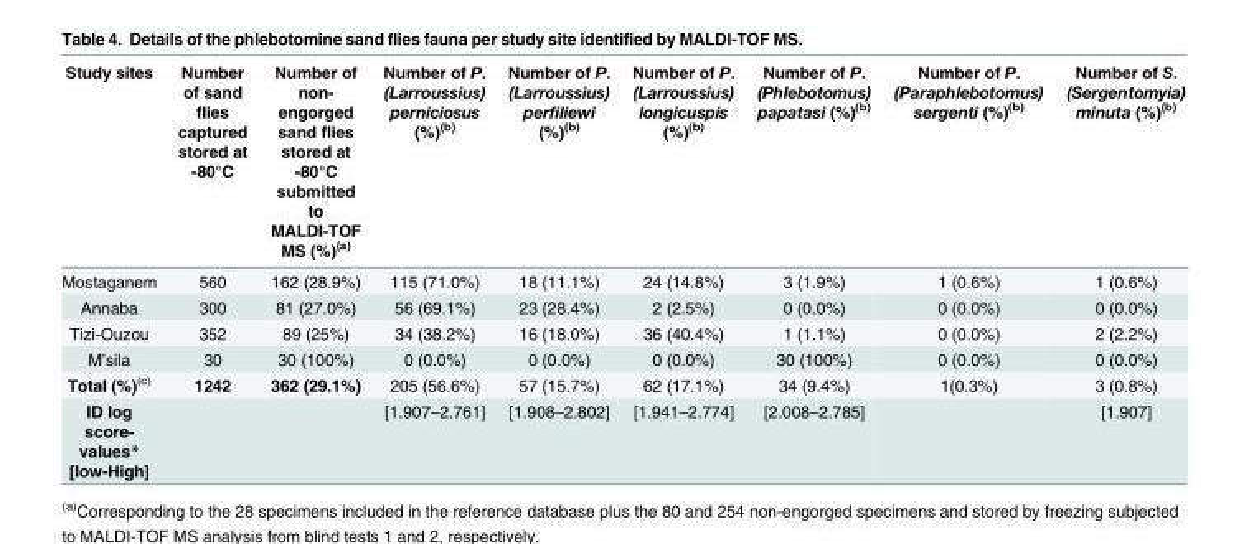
<table><thead><tr><td>Study sites</td><td>Number of sand flies captured stored at -80°C</td><td>Number of non- engorged sand flies stored at -80°C submitted to MALDI-TOF MS (%)<sup>(a)</sup></td><td>Number of P. (Larroussius) perniciosus (%)<sup>(b)</sup></td><td>Number of P. (Larroussius) perfiliewi (%)<sup>(b)</sup></td><td>Number of P. (Larroussius) longicuspis (%)<sup>(b)</sup></td><td>Number of P. (Phlebotomus) papatasi (%)<sup>(b)</sup></td><td>Number of P. (Paraphlebotomus) sergenti (%)<sup>(b)</sup></td><td>Number of S. (Sergentomyia) minuta (%)<sup>(b)</sup></td></tr></thead><tbody><tr><td>Mostaganem</td><td>560</td><td>162 (28.9%)</td><td>115 (71.0%)</td><td>18 (11.1%)</td><td>24 (14.8%)</td><td>3 (1.9%)</td><td>1 (0.6%)</td><td>1 (0.6%)</td></tr><tr><td>Annaba</td><td>300</td><td>81 (27.0%)</td><td>56 (69.1%)</td><td>23 (28.4%)</td><td>2 (2.5%)</td><td>0 (0.0%)</td><td>0 (0.0%)</td><td>0 (0.0%)</td></tr><tr><td>Tizi-Ouzou</td><td>352</td><td>89 (25%)</td><td>34 (38.2%)</td><td>16 (18.0%)</td><td>36 (40.4%)</td><td>1 (1.1%)</td><td>0 (0.0%)</td><td>2 (2.2%)</td></tr><tr><td>M’sila</td><td>30</td><td>30 (100%)</td><td>0 (0.0%)</td><td>0 (0.0%)</td><td>0 (0.0%)</td><td>30 (100%)</td><td>0 (0.0%)</td><td>0 (0.0%)</td></tr><tr><td>Total (%)<sup>(c)</sup></td><td>1242</td><td>362 (29.1%)</td><td>205 (56.6%)</td><td>57 (15.7%)</td><td>62 (17.1%)</td><td>34 (9.4%)</td><td>1(0.3%)</td><td>3 (0.8%)</td></tr><tr><td>ID log score- values* [low-High]</td><td></td><td></td><td>[1.907–2.761]</td><td>[1.908–2.802]</td><td>[1.941–2.774]</td><td>[2.008–2.785]</td><td></td><td>[1.907]</td></tr></tbody></table>